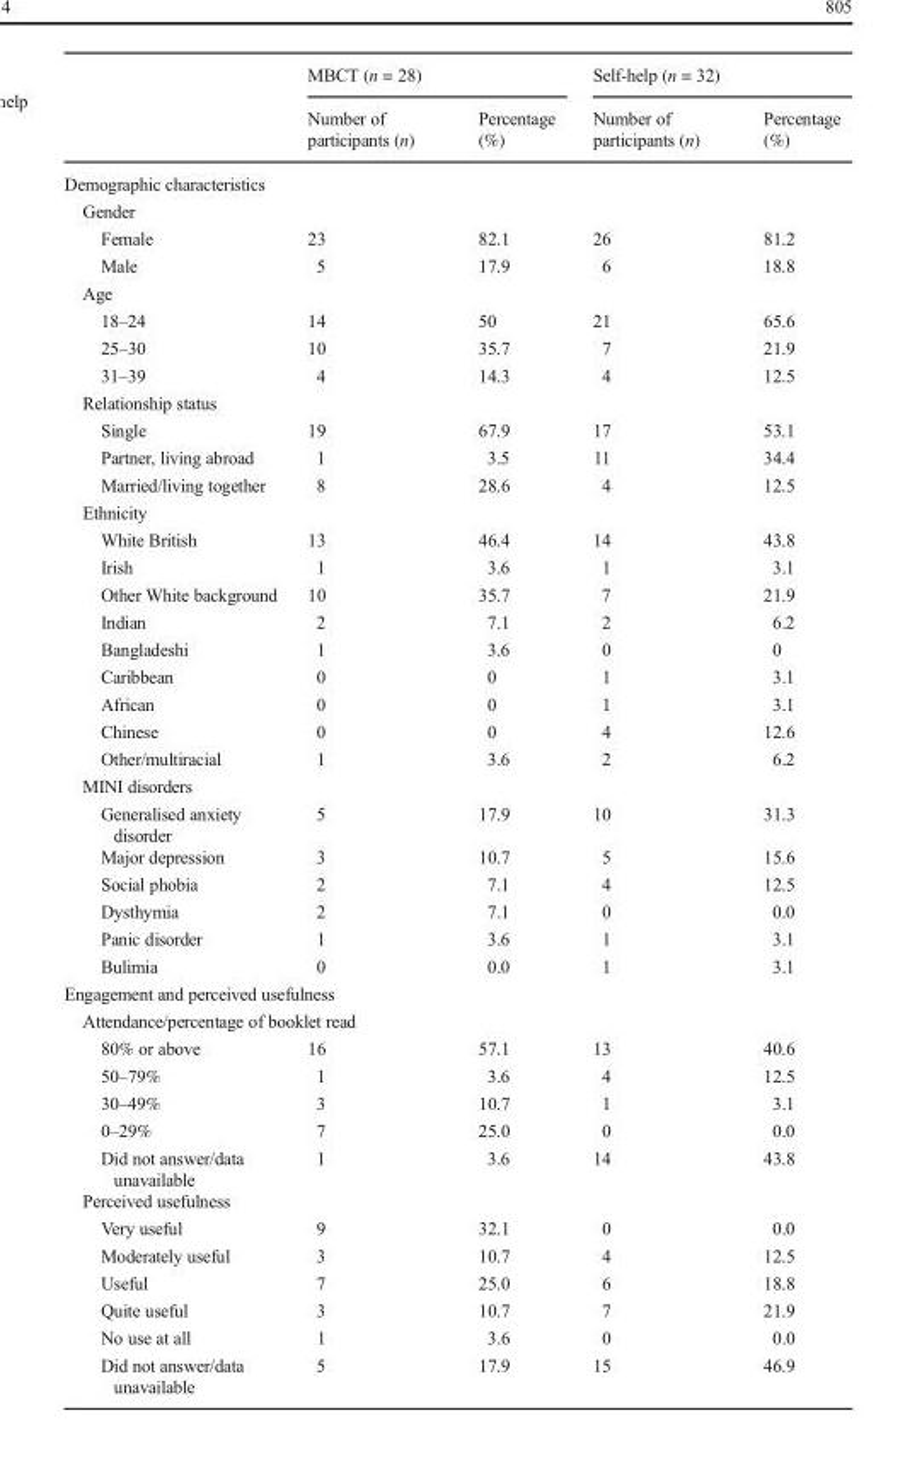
<table><thead><tr><td rowspan="2"></td><td colspan="2">MBCT (n = 28)</td><td colspan="2">Self-help (n = 32)</td></tr><tr><td>Number of participants (n)</td><td>Percentage (%)</td><td>Number of participants (n)</td><td>Percentage (%)</td></tr></thead><tbody><tr><td colspan="5">Demographic characteristics</td></tr><tr><td colspan="5">Gender</td></tr><tr><td>Female</td><td>23</td><td>82.1</td><td>26</td><td>81.2</td></tr><tr><td>Male</td><td>5</td><td>17.9</td><td>6</td><td>18.8</td></tr><tr><td colspan="5">Age</td></tr><tr><td>18–24</td><td>14</td><td>50</td><td>21</td><td>65.6</td></tr><tr><td>25–30</td><td>10</td><td>35.7</td><td>7</td><td>21.9</td></tr><tr><td>31–39</td><td>4</td><td>14.3</td><td>4</td><td>12.5</td></tr><tr><td colspan="5">Relationship status</td></tr><tr><td>Single</td><td>19</td><td>67.9</td><td>17</td><td>53.1</td></tr><tr><td>Partner, living abroad</td><td>1</td><td>3.5</td><td>11</td><td>34.4</td></tr><tr><td>Married/living together</td><td>8</td><td>28.6</td><td>4</td><td>12.5</td></tr><tr><td colspan="5">Ethnicity</td></tr><tr><td>White British</td><td>13</td><td>46.4</td><td>14</td><td>43.8</td></tr><tr><td>Irish</td><td>1</td><td>3.6</td><td>1</td><td>3.1</td></tr><tr><td>Other White background</td><td>10</td><td>35.7</td><td>7</td><td>21.9</td></tr><tr><td>Indian</td><td>2</td><td>7.1</td><td>2</td><td>6.2</td></tr><tr><td>Bangladeshi</td><td>1</td><td>3.6</td><td>0</td><td>0</td></tr><tr><td>Caribbean</td><td>0</td><td>0</td><td>1</td><td>3.1</td></tr><tr><td>African</td><td>0</td><td>0</td><td>1</td><td>3.1</td></tr><tr><td>Chinese</td><td>0</td><td>0</td><td>4</td><td>12.6</td></tr><tr><td>Other/multiracial</td><td>1</td><td>3.6</td><td>2</td><td>6.2</td></tr><tr><td colspan="5">MINI disorders</td></tr><tr><td>Generalised anxiety disorder</td><td>5</td><td>17.9</td><td>10</td><td>31.3</td></tr><tr><td>Major depression</td><td>3</td><td>10.7</td><td>5</td><td>15.6</td></tr><tr><td>Social phobia</td><td>2</td><td>7.1</td><td>4</td><td>12.5</td></tr><tr><td>Dysthymia</td><td>2</td><td>7.1</td><td>0</td><td>0.0</td></tr><tr><td>Panic disorder</td><td>1</td><td>3.6</td><td>1</td><td>3.1</td></tr><tr><td>Bulimia</td><td>0</td><td>0.0</td><td>1</td><td>3.1</td></tr><tr><td colspan="5">Engagement and perceived usefulness</td></tr><tr><td colspan="5">Attendance/percentage of booklet read</td></tr><tr><td>80% or above</td><td>16</td><td>57.1</td><td>13</td><td>40.6</td></tr><tr><td>50–79%</td><td>1</td><td>3.6</td><td>4</td><td>12.5</td></tr><tr><td>30–49%</td><td>3</td><td>10.7</td><td>1</td><td>3.1</td></tr><tr><td>0–29%</td><td>7</td><td>25.0</td><td>0</td><td>0.0</td></tr><tr><td>Did not answer/data unavailable</td><td>1</td><td>3.6</td><td>14</td><td>43.8</td></tr><tr><td colspan="5">Perceived usefulness</td></tr><tr><td>Very useful</td><td>9</td><td>32.1</td><td>0</td><td>0.0</td></tr><tr><td>Moderately useful</td><td>3</td><td>10.7</td><td>4</td><td>12.5</td></tr><tr><td>Useful</td><td>7</td><td>25.0</td><td>6</td><td>18.8</td></tr><tr><td>Quite useful</td><td>3</td><td>10.7</td><td>7</td><td>21.9</td></tr><tr><td>No use at all</td><td>1</td><td>3.6</td><td>0</td><td>0.0</td></tr><tr><td>Did not answer/data unavailable</td><td>5</td><td>17.9</td><td>15</td><td>46.9</td></tr></tbody></table>